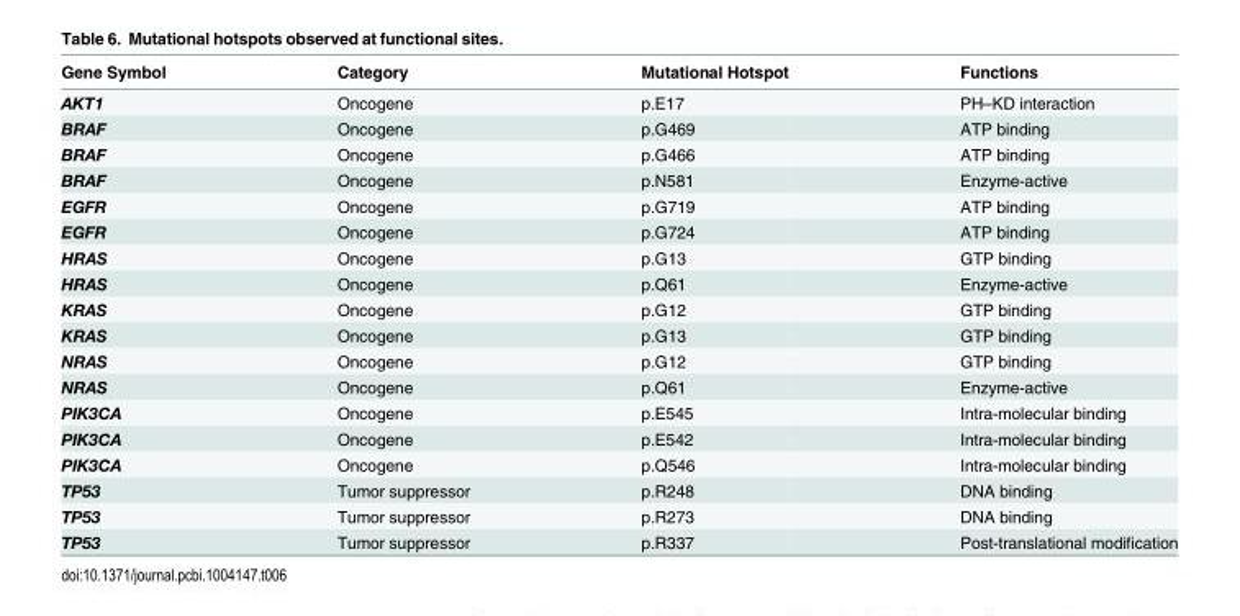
<table><thead><tr><td>Gene Symbol</td><td>Category</td><td>Mutational Hotspot</td><td>Functions</td></tr></thead><tbody><tr><td>AKT1</td><td>Oncogene</td><td>p.E17</td><td>PH–KD interaction</td></tr><tr><td>BRAF</td><td>Oncogene</td><td>p.G469</td><td>ATP binding</td></tr><tr><td>BRAF</td><td>Oncogene</td><td>p.G466</td><td>ATP binding</td></tr><tr><td>BRAF</td><td>Oncogene</td><td>p.N581</td><td>Enzyme-active</td></tr><tr><td>EGFR</td><td>Oncogene</td><td>p.G719</td><td>ATP binding</td></tr><tr><td>EGFR</td><td>Oncogene</td><td>p.G724</td><td>ATP binding</td></tr><tr><td>HRAS</td><td>Oncogene</td><td>p.G13</td><td>GTP binding</td></tr><tr><td>HRAS</td><td>Oncogene</td><td>p.Q61</td><td>Enzyme-active</td></tr><tr><td>KRAS</td><td>Oncogene</td><td>p.G12</td><td>GTP binding</td></tr><tr><td>KRAS</td><td>Oncogene</td><td>p.G13</td><td>GTP binding</td></tr><tr><td>NRAS</td><td>Oncogene</td><td>p.G12</td><td>GTP binding</td></tr><tr><td>NRAS</td><td>Oncogene</td><td>p.Q61</td><td>Enzyme-active</td></tr><tr><td>PIK3CA</td><td>Oncogene</td><td>p.E545</td><td>Intra-molecular binding</td></tr><tr><td>PIK3CA</td><td>Oncogene</td><td>p.E542</td><td>Intra-molecular binding</td></tr><tr><td>PIK3CA</td><td>Oncogene</td><td>p.Q546</td><td>Intra-molecular binding</td></tr><tr><td>TP53</td><td>Tumor suppressor</td><td>p.R248</td><td>DNA binding</td></tr><tr><td>TP53</td><td>Tumor suppressor</td><td>p.R273</td><td>DNA binding</td></tr><tr><td>TP53</td><td>Tumor suppressor</td><td>p.R337</td><td>Post-translational modification</td></tr></tbody></table>